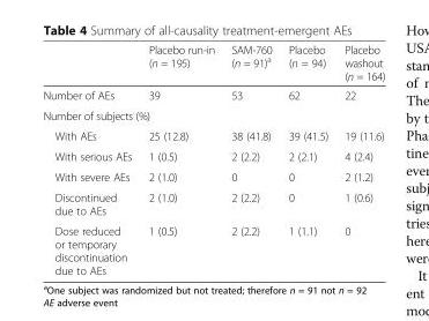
<table><thead><tr><td></td><td>Placebo run-in (n = 195)</td><td>SAM-760 (n = 91)<sup>a</sup></td><td>Placebo (n = 94)</td><td>Placebo washout (n = 164)</td></tr></thead><tbody><tr><td>Number of AEs</td><td>39</td><td>53</td><td>62</td><td>22</td></tr><tr><td colspan="5">Number of subjects (%)</td></tr><tr><td>With AEs</td><td>25 (12.8)</td><td>38 (41.8)</td><td>39 (41.5)</td><td>19 (11.6)</td></tr><tr><td>With serious AEs</td><td>1 (0.5)</td><td>2 (2.2)</td><td>2 (2.1)</td><td>4 (2.4)</td></tr><tr><td>With severe AEs</td><td>2 (1.0)</td><td>0</td><td>0</td><td>2 (1.2)</td></tr><tr><td>Discontinued due to AEs</td><td>2 (1.0)</td><td>2 (2.2)</td><td>0</td><td>1 (0.6)</td></tr><tr><td>Dose reduced or temporary discontinuation due to AEs</td><td>1 (0.5)</td><td>2 (2.2)</td><td>1 (1.1)</td><td>0</td></tr></tbody></table>